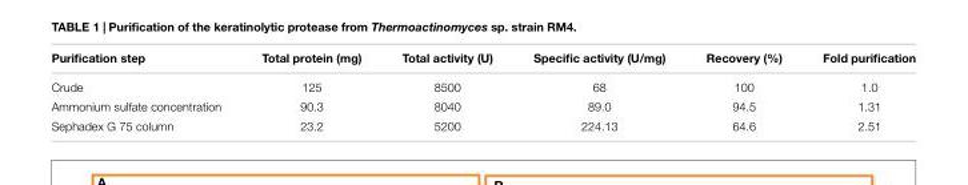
<table><thead><tr><td>Purification step</td><td>Total protein (mg)</td><td>Total activity (U)</td><td>Specific activity (U/mg)</td><td>Recovery (%)</td><td>Fold purification</td></tr></thead><tbody><tr><td>Crude</td><td>125</td><td>8500</td><td>68</td><td>100</td><td>1.0</td></tr><tr><td>Ammonium sulfate concentration</td><td>90.3</td><td>8040</td><td>89.0</td><td>94.5</td><td>1.31</td></tr><tr><td>Sephadex G 75 column</td><td>23.2</td><td>5200</td><td>224.13</td><td>64.6</td><td>2.51</td></tr></tbody></table>